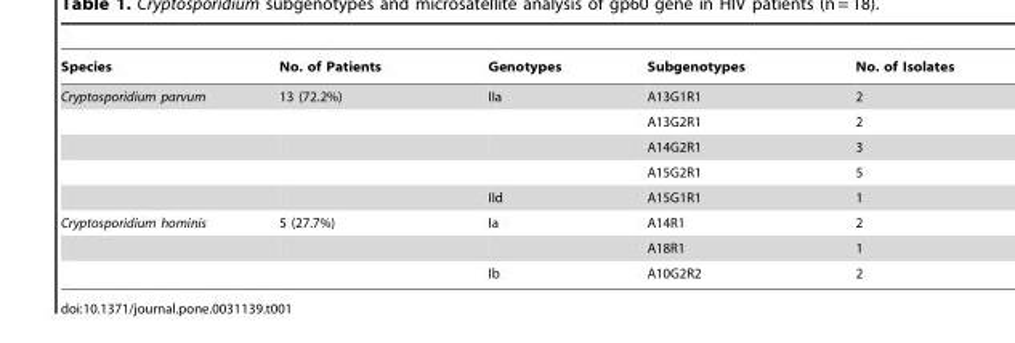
<table><thead><tr><td>Species</td><td>No. of Patients</td><td>Genotypes</td><td>Subgenotypes</td><td>No. of Isolates</td></tr></thead><tbody><tr><td rowspan="5">Cryptosporidium parvum</td><td>13 (72.2%)</td><td>IIa</td><td>A13G1R1</td><td>2</td></tr><tr><td></td><td></td><td>A13G2R1</td><td>2</td></tr><tr><td></td><td></td><td>A14G2R1</td><td>3</td></tr><tr><td></td><td></td><td>A15G2R1</td><td>5</td></tr><tr><td></td><td>IId</td><td>A15G1R1</td><td>1</td></tr><tr><td rowspan="3">Cryptosporidium hominis</td><td>5 (27.7%)</td><td>Ia</td><td>A14R1</td><td>2</td></tr><tr><td></td><td></td><td>A18R1</td><td>1</td></tr><tr><td></td><td>Ib</td><td>A10G2R2</td><td>2</td></tr></tbody></table>